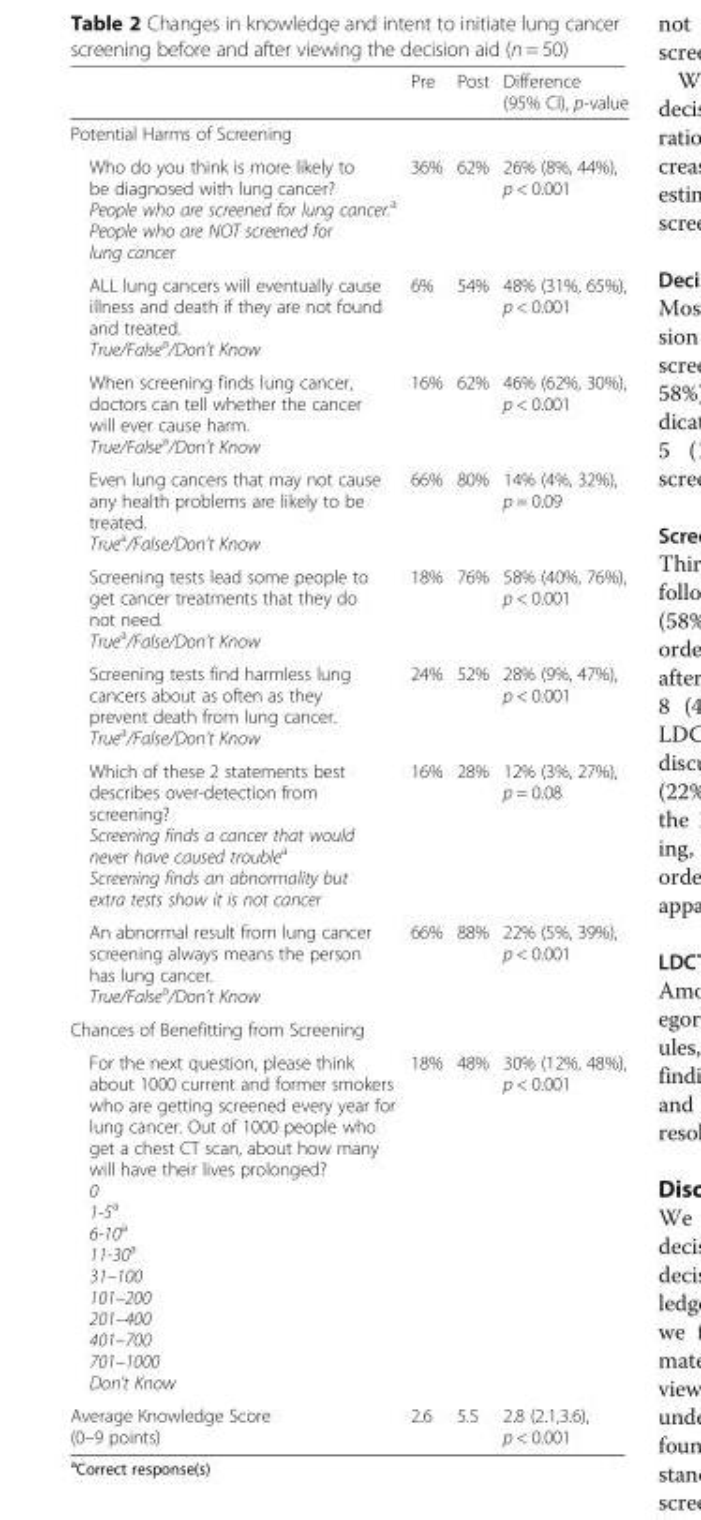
<table><thead><tr><td></td><td>Pre</td><td>Post</td><td>Difference (95% CI), p-value</td></tr></thead><tbody><tr><td colspan="4">Potential Harms of Screening</td></tr><tr><td>Who do you think is more likely to be diagnosed with lung cancer? People who are screened for lung cancer.<sup>a</sup> People who are NOT screened for lung cancer</td><td>36%</td><td>62%</td><td>26% (8%, 44%), p &lt; 0.001</td></tr><tr><td>ALL lung cancers will eventually cause illness and death if they are not found and treated. True/False<sup>a</sup>/Don’t Know</td><td>6%</td><td>54%</td><td>48% (31%, 65%), p &lt; 0.001</td></tr><tr><td>When screening finds lung cancer, doctors can tell whether the cancer will ever cause harm. True/False<sup>a</sup>/Don’t Know</td><td>16%</td><td>62%</td><td>46% (62%, 30%), p &lt; 0.001</td></tr><tr><td>Even lung cancers that may not cause any health problems are likely to be treated. True<sup>a</sup>/False/Don’t Know</td><td>66%</td><td>80%</td><td>14% (4%, 32%), p = 0.09</td></tr><tr><td>Screening tests lead some people to get cancer treatments that they do not need. True<sup>a</sup>/False/Don’t Know</td><td>18%</td><td>76%</td><td>58% (40%, 76%), p &lt; 0.001</td></tr><tr><td>Screening tests find harmless lung cancers about as often as they prevent death from lung cancer. True<sup>a</sup>/False/Don’t Know</td><td>24%</td><td>52%</td><td>28% (9%, 47%), p &lt; 0.001</td></tr><tr><td>Which of these 2 statements best describes over-detection from screening? Screening finds a cancer that would never have caused trouble<sup>a</sup> Screening finds an abnormality but extra tests show it is not cancer</td><td>16%</td><td>28%</td><td>12% (3%, 27%), p = 0.08</td></tr><tr><td>An abnormal result from lung cancer screening always means the person has lung cancer. True/False<sup>a</sup>/Don’t Know</td><td>66%</td><td>88%</td><td>22% (5%, 39%), p &lt; 0.001</td></tr><tr><td colspan="4">Chances of Benefitting from Screening</td></tr><tr><td>For the next question, please think about 1000 current and former smokers who are getting screened every year for lung cancer. Out of 1000 people who get a chest CT scan, about how many will have their lives prolonged? 0 1-5<sup>a</sup> 6-10<sup>a</sup> 11-30<sup>a</sup> 31–100 101–200 201–400 401–700 701–1000 Don’t Know</td><td>18%</td><td>48%</td><td>30% (12%, 48%), p &lt; 0.001</td></tr><tr><td>Average Knowledge Score (0–9 points)</td><td>2.6</td><td>5.5</td><td>2.8 (2.1,3.6), p &lt; 0.001</td></tr></tbody></table>